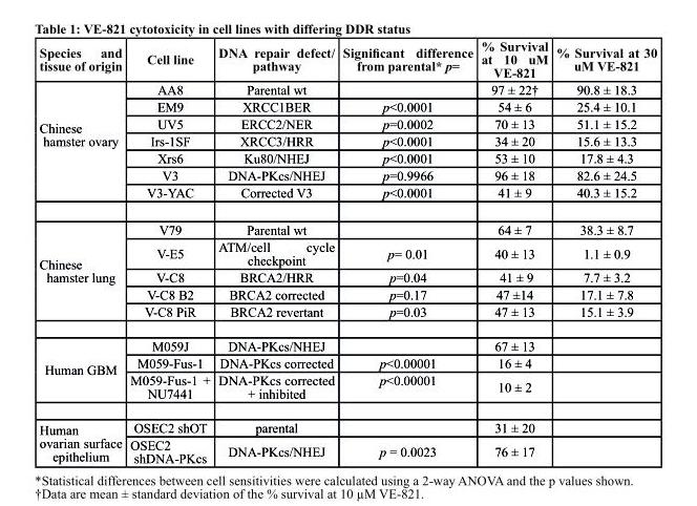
<table><thead><tr><td>species and tissue of origin</td><td>cell line</td><td>dnA repair defect/ pathway</td><td>Significant difference from parental* p=</td><td>% survival at 10 uM Ve-821</td><td>% survival at 30 uM Ve-821</td></tr></thead><tbody><tr><td rowspan="7">Chinese hamster ovary</td><td>AA8</td><td>Parental wt</td><td></td><td>97 ± 22†</td><td>90.8 ± 18.3</td></tr><tr><td>EM9</td><td>XRCC1BER</td><td>p&lt;0.0001</td><td>54 ± 6</td><td>25.4 ± 10.1</td></tr><tr><td>UV5</td><td>ERCC2/NER</td><td>p=0.0002</td><td>70 ± 13</td><td>51.1 ± 15.2</td></tr><tr><td>Irs-1SF</td><td>XRCC3/HRR</td><td>p&lt;0.0001</td><td>34 ± 20</td><td>15.6 ± 13.3</td></tr><tr><td>Xrs6</td><td>Ku80/NHEJ</td><td>p&lt;0.0001</td><td>53 ± 10</td><td>17.8 ± 4.3</td></tr><tr><td>V3</td><td>DNA-PKcs/NHEJ</td><td>p=0.9966</td><td>96 ± 18</td><td>82.6 ± 24.5</td></tr><tr><td>V3-YAC</td><td>Corrected V3</td><td>p&lt;0.0001</td><td>41 ± 9</td><td>40.3 ± 15.2</td></tr><tr><td rowspan="5">Chinese hamster lung</td><td>V79</td><td>Parental wt</td><td></td><td>64 ± 7</td><td>38.3 ± 8.7</td></tr><tr><td>V-E5</td><td>ATM/cell cycle checkpoint</td><td>p= 0.01</td><td>40 ± 13</td><td>1.1 ± 0.9</td></tr><tr><td>V-C8</td><td>BRCA2/HRR</td><td>p=0.04</td><td>41 ± 9</td><td>7.7 ± 3.2</td></tr><tr><td>V-C8 B2</td><td>BRCA2 corrected</td><td>p=0.17</td><td>47 ±14</td><td>17.1 ± 7.8</td></tr><tr><td>V-C8 PiR</td><td>BRCA2 revertant</td><td>p=0.03</td><td>47 ± 13</td><td>15.1 ± 3.9</td></tr><tr><td rowspan="3">Human GBM</td><td>M059J</td><td>DNA-PKcs/NHEJ</td><td></td><td>67 ± 13</td><td></td></tr><tr><td>M059-Fus-1</td><td>DNA-PKcs corrected</td><td>p&lt;0.00001</td><td>16 ± 4</td><td></td></tr><tr><td>M059-Fus-1 + NU7441</td><td>DNA-PKcs corrected + inhibited</td><td>p&lt;0.00001</td><td>10 ± 2</td><td></td></tr><tr><td rowspan="2">Human ovarian surface epithelium</td><td>OSEC2 shOT</td><td>parental</td><td></td><td>31 ± 20</td><td></td></tr><tr><td>OSEC2 shDNA-PKcs</td><td>DNA-PKcs/NHEJ</td><td>p = 0.0023</td><td>76 ± 17</td><td></td></tr></tbody></table>